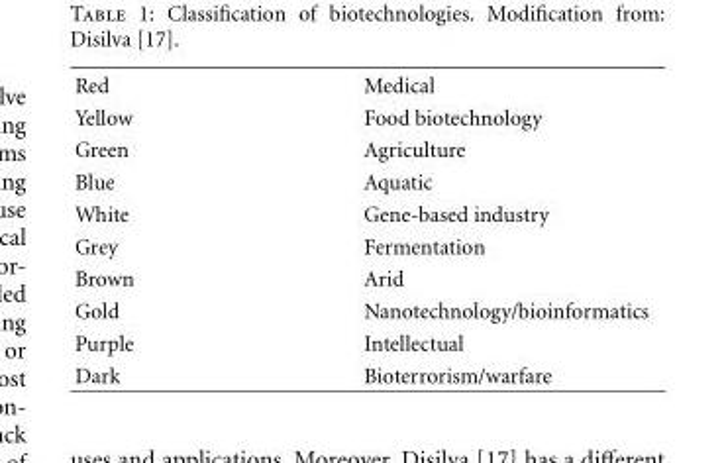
<table><tbody><tr><td>Red</td><td>Medical</td></tr><tr><td>Yellow</td><td>Food biotechnology</td></tr><tr><td>Green</td><td>Agriculture</td></tr><tr><td>Blue</td><td>Aquatic</td></tr><tr><td>White</td><td>Gene-based industry</td></tr><tr><td>Grey</td><td>Fermentation</td></tr><tr><td>Brown</td><td>Arid</td></tr><tr><td>Gold</td><td>Nanotechnology/bioinformatics</td></tr><tr><td>Purple</td><td>Intellectual</td></tr><tr><td>Dark</td><td>Bioterrorism/warfare</td></tr></tbody></table>